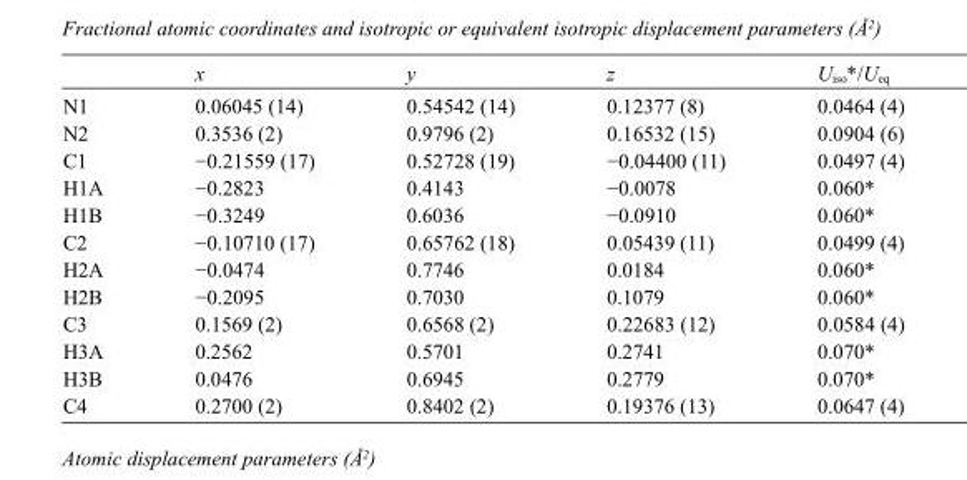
<table><thead><tr><td></td><td>x</td><td>y</td><td>z</td><td>U<sub>iso</sub>*/U<sub>eq</sub></td></tr></thead><tbody><tr><td>N1</td><td>0.06045 (14)</td><td>0.54542 (14)</td><td>0.12377 (8)</td><td>0.0464 (4)</td></tr><tr><td>N2</td><td>0.3536 (2)</td><td>0.9796 (2)</td><td>0.16532 (15)</td><td>0.0904 (6)</td></tr><tr><td>C1</td><td>−0.21559 (17)</td><td>0.52728 (19)</td><td>−0.04400 (11)</td><td>0.0497 (4)</td></tr><tr><td>H1A</td><td>−0.2823</td><td>0.4143</td><td>−0.0078</td><td>0.060*</td></tr><tr><td>H1B</td><td>−0.3249</td><td>0.6036</td><td>−0.0910</td><td>0.060*</td></tr><tr><td>C2</td><td>−0.10710 (17)</td><td>0.65762 (18)</td><td>0.05439 (11)</td><td>0.0499 (4)</td></tr><tr><td>H2A</td><td>−0.0474</td><td>0.7746</td><td>0.0184</td><td>0.060*</td></tr><tr><td>H2B</td><td>−0.2095</td><td>0.7030</td><td>0.1079</td><td>0.060*</td></tr><tr><td>C3</td><td>0.1569 (2)</td><td>0.6568 (2)</td><td>0.22683 (12)</td><td>0.0584 (4)</td></tr><tr><td>H3A</td><td>0.2562</td><td>0.5701</td><td>0.2741</td><td>0.070*</td></tr><tr><td>H3B</td><td>0.0476</td><td>0.6945</td><td>0.2779</td><td>0.070*</td></tr><tr><td>C4</td><td>0.2700 (2)</td><td>0.8402 (2)</td><td>0.19376 (13)</td><td>0.0647 (4)</td></tr></tbody></table>